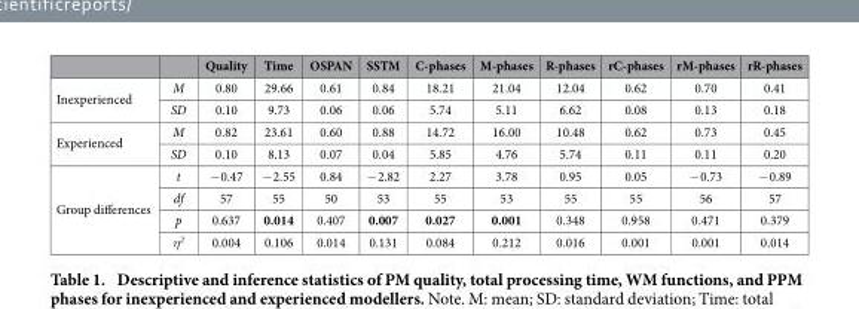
<table><thead><tr><td></td><td></td><td>Quality</td><td>Time</td><td>OSPAN</td><td>SSTM</td><td>C-phases</td><td>M-phases</td><td>R-phases</td><td>rC-phases</td><td>rM-phases</td><td>rR-phases</td></tr></thead><tbody><tr><td rowspan="2">Inexperienced</td><td>M</td><td>0.80</td><td>29.66</td><td>0.61</td><td>0.84</td><td>18.21</td><td>21.04</td><td>12.04</td><td>0.62</td><td>0.70</td><td>0.41</td></tr><tr><td>SD</td><td>0.10</td><td>9.73</td><td>0.06</td><td>0.06</td><td>5.74</td><td>5.11</td><td>6.62</td><td>0.08</td><td>0.13</td><td>0.18</td></tr><tr><td rowspan="2">Experienced</td><td>M</td><td>0.82</td><td>23.61</td><td>0.60</td><td>0.88</td><td>14.72</td><td>16.00</td><td>10.48</td><td>0.62</td><td>0.73</td><td>0.45</td></tr><tr><td>SD</td><td>0.10</td><td>8.13</td><td>0.07</td><td>0.04</td><td>5.85</td><td>4.76</td><td>5.74</td><td>0.11</td><td>0.11</td><td>0.20</td></tr><tr><td rowspan="4">Group differences</td><td>t</td><td>− 0.47</td><td>− 2.55</td><td>0.84</td><td>− 2.82</td><td>2.27</td><td>3.78</td><td>0.95</td><td>0.05</td><td>− 0.73</td><td>− 0.89</td></tr><tr><td>df</td><td>57</td><td>55</td><td>50</td><td>53</td><td>55</td><td>53</td><td>55</td><td>55</td><td>56</td><td>57</td></tr><tr><td>p</td><td>0.637</td><td>0.014</td><td>0.407</td><td>0.007</td><td>0.027</td><td>0.001</td><td>0.348</td><td>0.958</td><td>0.471</td><td>0.379</td></tr><tr><td>η<sup>2</sup></td><td>0.004</td><td>0.106</td><td>0.014</td><td>0.131</td><td>0.084</td><td>0.212</td><td>0.016</td><td>0.001</td><td>0.001</td><td>0.014</td></tr></tbody></table>